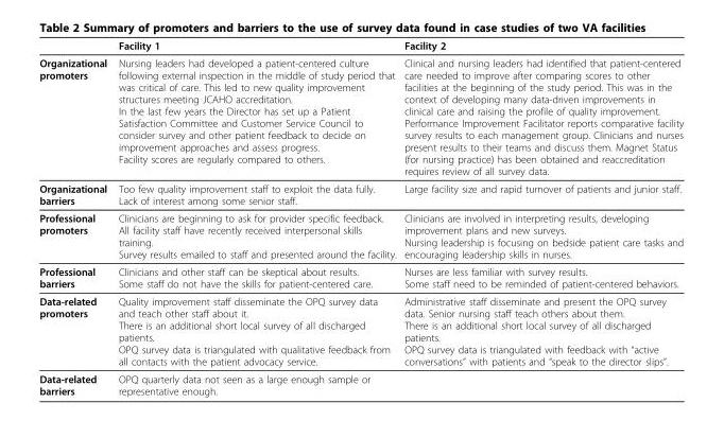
<table><thead><tr><td></td><td>Facility 1</td><td>Facility 2</td></tr></thead><tbody><tr><td>Organizational promoters</td><td>Nursing leaders had developed a patient-centered culture following external inspection in the middle of study period that was critical of care. This led to new quality improvement structures meeting JCAHO accreditation. In the last few years the Director has set up a Patient Satisfaction Committee and Customer Service Council to consider survey and other patient feedback to decide on improvement approaches and assess progress. Facility scores are regularly compared to others.</td><td>Clinical and nursing leaders had identified that patient-centered care needed to improve after comparing scores to other facilities at the beginning of the study period. This was in the context of developing many data-driven improvements in clinical care and raising the profile of quality improvement. Performance Improvement Facilitator reports comparative facility survey results to each management group. Clinicians and nurses present results to their teams and discuss them. Magnet Status (for nursing practice) has been obtained and reaccreditation requires review of all survey data.</td></tr><tr><td>Organizational barriers</td><td>Too few quality improvement staff to exploit the data fully. Lack of interest among some senior staff.</td><td>Large facility size and rapid turnover of patients and junior staff.</td></tr><tr><td>Professional promoters</td><td>Clinicians are beginning to ask for provider specific feedback. All facility staff have recently received interpersonal skills training. Survey results emailed to staff and presented around the facility.</td><td>Clinicians are involved in interpreting results, developing improvement plans and new surveys. Nursing leadership is focusing on bedside patient care tasks and encouraging leadership skills in nurses.</td></tr><tr><td>Professional barriers</td><td>Clinicians and other staff can be skeptical about results. Some staff do not have the skills for patient-centered care.</td><td>Nurses are less familiar with survey results. Some staff need to be reminded of patient-centered behaviors.</td></tr><tr><td>Data-related promoters</td><td>Quality improvement staff disseminate the OPQ survey data and teach other staff about it. There is an additional short local survey of all discharged patients. OPQ survey data is triangulated with qualitative feedback from all contacts with the patient advocacy service.</td><td>Administrative staff disseminate and present the OPQ survey data. Senior nursing staff teach others about them. There is an additional short local survey of all discharged patients. OPQ survey data is triangulated with feedback with “active conversations” with patients and “speak to the director slips”.</td></tr><tr><td>Data-related barriers</td><td>OPQ quarterly data not seen as a large enough sample or representative enough.</td><td></td></tr></tbody></table>